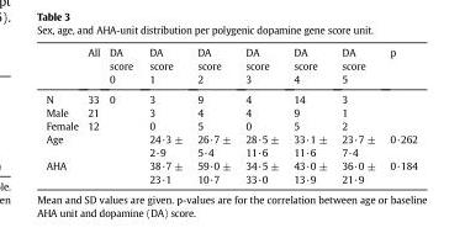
<table><thead><tr><td></td><td>All</td><td>DA score 0</td><td>DA score 1</td><td>DA score 2</td><td>DA score 3</td><td>DA score 4</td><td>DA score 5</td><td>p</td></tr></thead><tbody><tr><td>N</td><td>33</td><td>0</td><td>3</td><td>9</td><td>4</td><td>14</td><td>3</td><td></td></tr><tr><td>Male</td><td>21</td><td></td><td>3</td><td>4</td><td>4</td><td>9</td><td>1</td><td></td></tr><tr><td>Female</td><td>12</td><td></td><td>0</td><td>5</td><td>0</td><td>5</td><td>2</td><td></td></tr><tr><td>Age</td><td></td><td></td><td>24·3 ± 2·9</td><td>26·7 ± 5·4</td><td>28·5 ± 11·6</td><td>33·1 ± 11·6</td><td>23·7 ± 7·4</td><td>0·262</td></tr><tr><td>AHA</td><td></td><td></td><td>38·7 ± 23·1</td><td>59·0 ± 10·7</td><td>34·5 ± 33·0</td><td>43·0 ± 13·9</td><td>36·0 ± 21·9</td><td>0·184</td></tr></tbody></table>